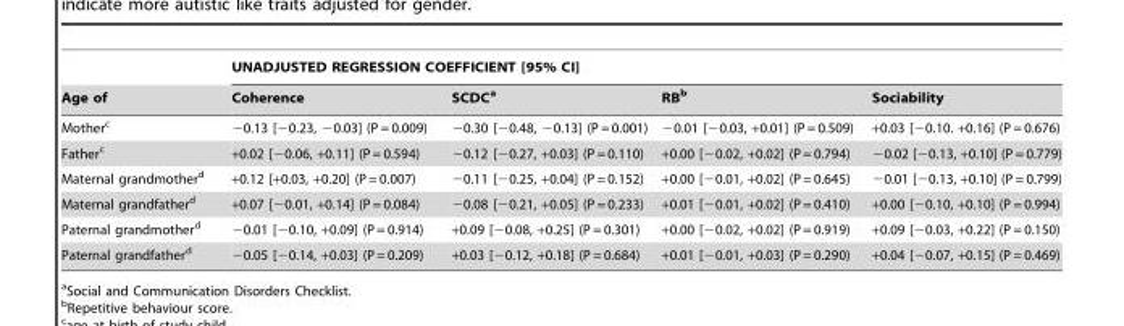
<table><thead><tr><td rowspan="2">Age of</td><td colspan="4">UNADJUSTED REGRESSION COEFFICIENT [95% CI]</td></tr><tr><td>Coherence</td><td>SCDC<sup>a</sup></td><td>RB<sup>b</sup></td><td>Sociability</td></tr></thead><tbody><tr><td>Mother<sup>c</sup></td><td>−0.13 [−0.23, −0.03] (P = 0.009)</td><td>−0.30 [−0.48, −0.13] (P = 0.001)</td><td>−0.01 [−0.03, +0.01] (P = 0.509)</td><td>+0.03 [−0.10. +0.16] (P = 0.676)</td></tr><tr><td>Father<sup>c</sup></td><td>+0.02 [−0.06, +0.11] (P = 0.594)</td><td>−0.12 [−0.27, +0.03] (P = 0.110)</td><td>+0.00 [−0.02, +0.02] (P = 0.794)</td><td>−0.02 [−0.13, +0.10] (P = 0.779)</td></tr><tr><td>Maternal grandmother<sup>d</sup></td><td>+0.12 [+0.03, +0.20] (P = 0.007)</td><td>−0.11 [−0.25, +0.04] (P = 0.152)</td><td>+0.00 [−0.01, +0.02] (P = 0.645)</td><td>−0.01 [−0.13, +0.10] (P = 0.799)</td></tr><tr><td>Maternal grandfather<sup>d</sup></td><td>+0.07 [−0.01, +0.14] (P = 0.084)</td><td>−0.08 [−0.21, +0.05] (P = 0.233)</td><td>+0.01 [−0.01, +0.02] (P = 0.410)</td><td>+0.00 [−0.10, +0.10] (P = 0.994)</td></tr><tr><td>Paternal grandmother<sup>d</sup></td><td>−0.01 [−0.10, +0.09] (P = 0.914)</td><td>+0.09 [−0.08, +0.25] (P = 0.301)</td><td>+0.00 [−0.02, +0.02] (P = 0.919)</td><td>+0.09 [−0.03, +0.22] (P = 0.150)</td></tr><tr><td>Paternal grandfather<sup>d</sup></td><td>−0.05 [−0.14, +0.03] (P = 0.209)</td><td>+0.03 [−0.12, +0.18] (P = 0.684)</td><td>+0.01 [−0.01, +0.03] (P = 0.290)</td><td>+0.04 [−0.07, +0.15] (P = 0.469)</td></tr></tbody></table>